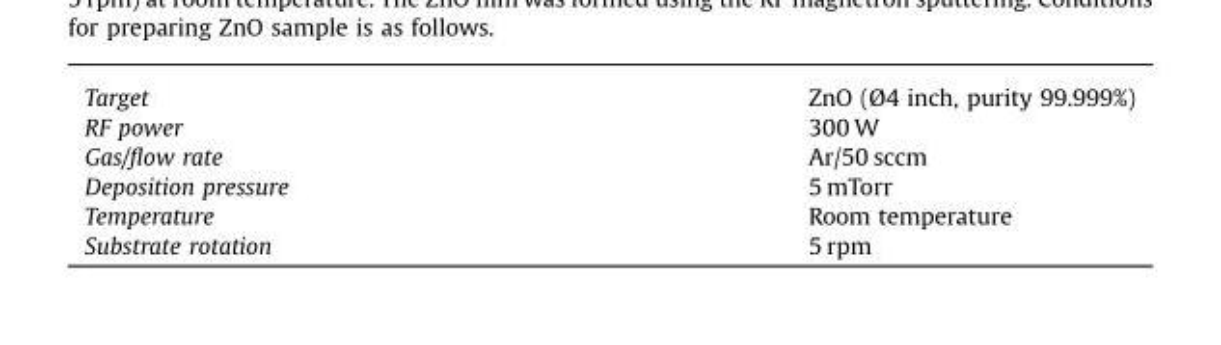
<table><tbody><tr><td>Target</td><td>ZnO (Ø4 inch, purity 99.999%)</td></tr><tr><td>RF power</td><td>300 W</td></tr><tr><td>Gas/flow rate</td><td>Ar/50 sccm</td></tr><tr><td>Deposition pressure</td><td>5 mTorr</td></tr><tr><td>Temperature</td><td>Room temperature</td></tr><tr><td>Substrate rotation</td><td>5 rpm</td></tr></tbody></table>